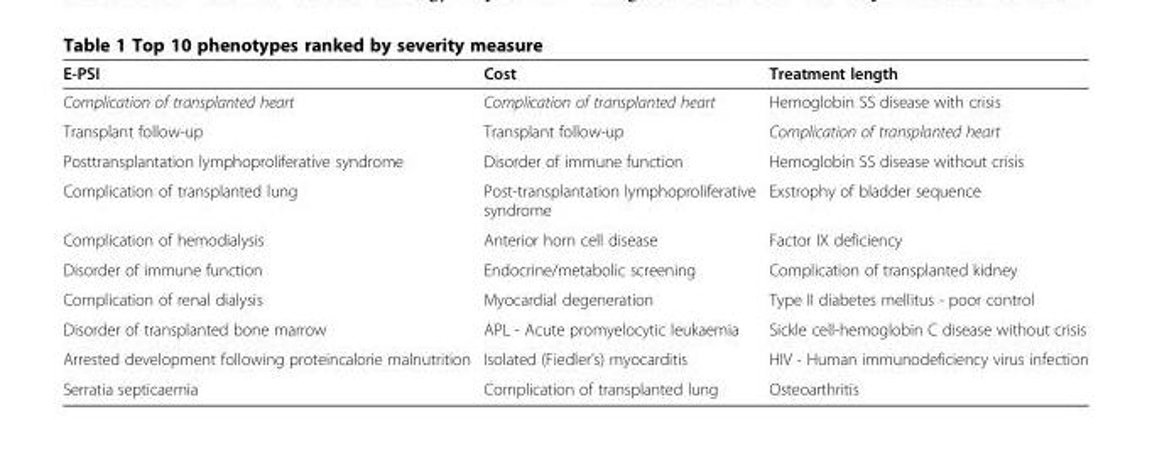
<table><thead><tr><td>E-PSI</td><td>Cost</td><td>Treatment length</td></tr></thead><tbody><tr><td>Complication of transplanted heart</td><td>Complication of transplanted heart</td><td>Hemoglobin SS disease with crisis</td></tr><tr><td>Transplant follow-up</td><td>Transplant follow-up</td><td>Complication of transplanted heart</td></tr><tr><td>Posttransplantation lymphoproliferative syndrome</td><td>Disorder of immune function</td><td>Hemoglobin SS disease without crisis</td></tr><tr><td>Complication of transplanted lung</td><td>Post-transplantation lymphoproliferative syndrome</td><td>Exstrophy of bladder sequence</td></tr><tr><td>Complication of hemodialysis</td><td>Anterior horn cell disease</td><td>Factor IX deficiency</td></tr><tr><td>Disorder of immune function</td><td>Endocrine/metabolic screening</td><td>Complication of transplanted kidney</td></tr><tr><td>Complication of renal dialysis</td><td>Myocardial degeneration</td><td>Type II diabetes mellitus - poor control</td></tr><tr><td>Disorder of transplanted bone marrow</td><td>APL - Acute promyelocytic leukaemia</td><td>Sickle cell-hemoglobin C disease without crisis</td></tr><tr><td>Arrested development following proteincalorie malnutrition</td><td>Isolated (Fiedler’s) myocarditis</td><td>HIV - Human immunodeficiency virus infection</td></tr><tr><td>Serratia septicaemia</td><td>Complication of transplanted lung</td><td>Osteoarthritis</td></tr></tbody></table>